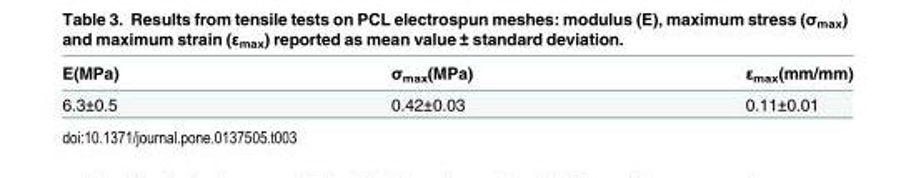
<table><thead><tr><td>E(MPa)</td><td>σ<sub>max</sub>(MPa)</td><td>ε<sub>max</sub>(mm/mm)</td></tr></thead><tbody><tr><td>6.3±0.5</td><td>0.42±0.03</td><td>0.11±0.01</td></tr></tbody></table>